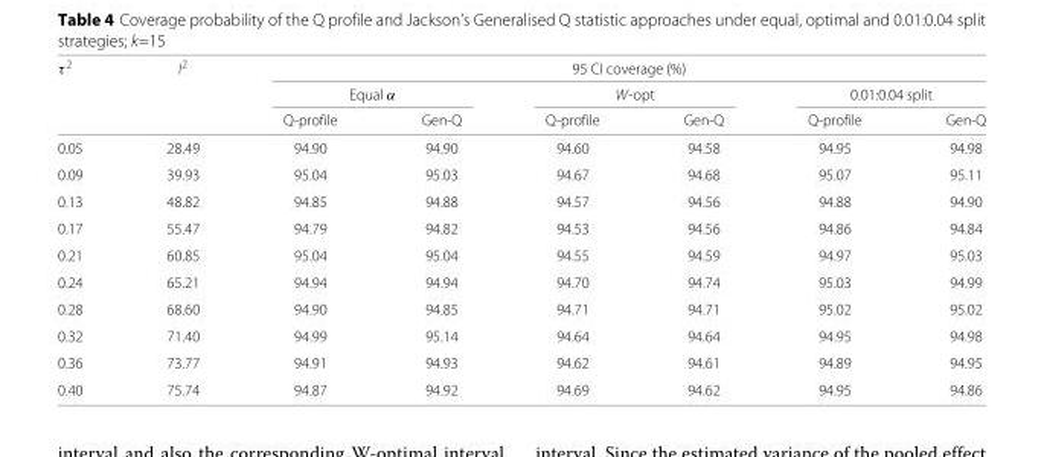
<table><thead><tr><td rowspan="3">τ <sup>2</sup></td><td rowspan="3">I<sup>2</sup></td><td colspan="6">95 CI coverage (%)</td></tr><tr><td colspan="2">Equal α</td><td colspan="2">W-opt</td><td colspan="2">0.01:0.04 split</td></tr><tr><td>Q-profile</td><td>Gen-Q</td><td>Q-profile</td><td>Gen-Q</td><td>Q-profile</td><td>Gen-Q</td></tr></thead><tbody><tr><td>0.05</td><td>28.49</td><td>94.90</td><td>94.90</td><td>94.60</td><td>94.58</td><td>94.95</td><td>94.98</td></tr><tr><td>0.09</td><td>39.93</td><td>95.04</td><td>95.03</td><td>94.67</td><td>94.68</td><td>95.07</td><td>95.11</td></tr><tr><td>0.13</td><td>48.82</td><td>94.85</td><td>94.88</td><td>94.57</td><td>94.56</td><td>94.88</td><td>94.90</td></tr><tr><td>0.17</td><td>55.47</td><td>94.79</td><td>94.82</td><td>94.53</td><td>94.56</td><td>94.86</td><td>94.84</td></tr><tr><td>0.21</td><td>60.85</td><td>95.04</td><td>95.04</td><td>94.55</td><td>94.59</td><td>94.97</td><td>95.03</td></tr><tr><td>0.24</td><td>65.21</td><td>94.94</td><td>94.94</td><td>94.70</td><td>94.74</td><td>95.03</td><td>94.99</td></tr><tr><td>0.28</td><td>68.60</td><td>94.90</td><td>94.85</td><td>94.71</td><td>94.71</td><td>95.02</td><td>95.02</td></tr><tr><td>0.32</td><td>71.40</td><td>94.99</td><td>95.14</td><td>94.64</td><td>94.64</td><td>94.95</td><td>94.98</td></tr><tr><td>0.36</td><td>73.77</td><td>94.91</td><td>94.93</td><td>94.62</td><td>94.61</td><td>94.89</td><td>94.95</td></tr><tr><td>0.40</td><td>75.74</td><td>94.87</td><td>94.92</td><td>94.69</td><td>94.62</td><td>94.95</td><td>94.86</td></tr></tbody></table>